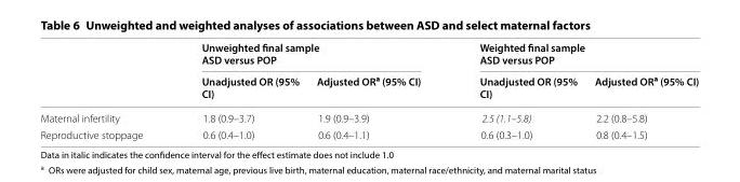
<table><thead><tr><td rowspan="2"></td><td colspan="2">Unweighted final sample ASD versus POP</td><td colspan="2">Weighted final sample ASD versus POP</td></tr><tr><td>Unadjusted OR (95% CI)</td><td>Adjusted OR<sup>a</sup> (95% CI)</td><td>Unadjusted OR (95% CI)</td><td>Adjusted OR<sup>a</sup> (95% CI)</td></tr></thead><tbody><tr><td>Maternal infertility</td><td>1.8 (0.9–3.7)</td><td>1.9 (0.9–3.9)</td><td>2.5 (1.1–5.8)</td><td>2.2 (0.8–5.8)</td></tr><tr><td>Reproductive stoppage</td><td>0.6 (0.4–1.0)</td><td>0.6 (0.4–1.1)</td><td>0.6 (0.3–1.0)</td><td>0.8 (0.4–1.5)</td></tr></tbody></table>